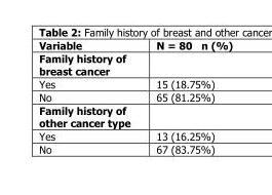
<table><thead><tr><td>Variable</td><td>N = 80 n (%)</td></tr></thead><tbody><tr><td colspan="2">Family history of breast cancer</td></tr><tr><td>Yes</td><td>15 (18.75%)</td></tr><tr><td>No</td><td>65 (81.25%)</td></tr><tr><td colspan="2">Family history of other cancer type</td></tr><tr><td>Yes</td><td>13 (16.25%)</td></tr><tr><td>No</td><td>67 (83.75%)</td></tr></tbody></table>